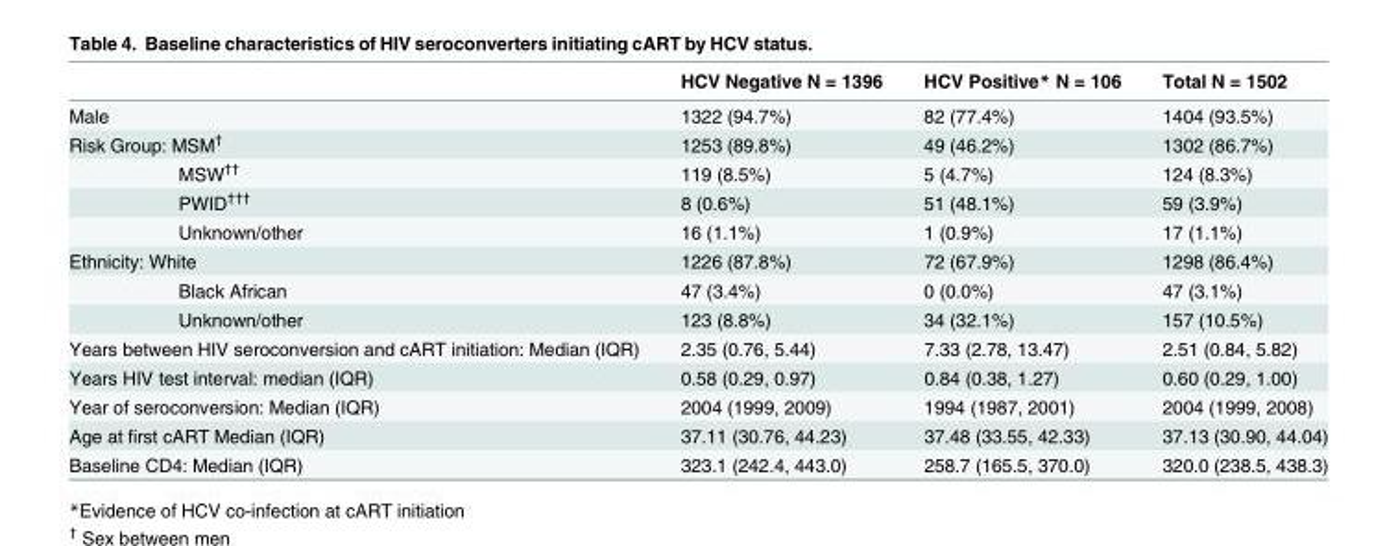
<table><thead><tr><td></td><td>HCV Negative N = 1396</td><td>HCV Positive* N = 106</td><td>Total N = 1502</td></tr></thead><tbody><tr><td>Male</td><td>1322 (94.7%)</td><td>82 (77.4%)</td><td>1404 (93.5%)</td></tr><tr><td>Risk Group: MSM<sup>†</sup></td><td>1253 (89.8%)</td><td>49 (46.2%)</td><td>1302 (86.7%)</td></tr><tr><td>MSW<sup>††</sup></td><td>119 (8.5%)</td><td>5 (4.7%)</td><td>124 (8.3%)</td></tr><tr><td>PWID<sup>†††</sup></td><td>8 (0.6%)</td><td>51 (48.1%)</td><td>59 (3.9%)</td></tr><tr><td>Unknown/other</td><td>16 (1.1%)</td><td>1 (0.9%)</td><td>17 (1.1%)</td></tr><tr><td>Ethnicity: White</td><td>1226 (87.8%)</td><td>72 (67.9%)</td><td>1298 (86.4%)</td></tr><tr><td>Black African</td><td>47 (3.4%)</td><td>0 (0.0%)</td><td>47 (3.1%)</td></tr><tr><td>Unknown/other</td><td>123 (8.8%)</td><td>34 (32.1%)</td><td>157 (10.5%)</td></tr><tr><td>Years between HIV seroconversion and cART initiation: Median (IQR)</td><td>2.35 (0.76, 5.44)</td><td>7.33 (2.78, 13.47)</td><td>2.51 (0.84, 5.82)</td></tr><tr><td>Years HIV test interval: median (IQR)</td><td>0.58 (0.29, 0.97)</td><td>0.84 (0.38, 1.27)</td><td>0.60 (0.29, 1.00)</td></tr><tr><td>Year of seroconversion: Median (IQR)</td><td>2004 (1999, 2009)</td><td>1994 (1987, 2001)</td><td>2004 (1999, 2008)</td></tr><tr><td>Age at first cART Median (IQR)</td><td>37.11 (30.76, 44.23)</td><td>37.48 (33.55, 42.33)</td><td>37.13 (30.90, 44.04)</td></tr><tr><td>Baseline CD4: Median (IQR)</td><td>323.1 (242.4, 443.0)</td><td>258.7 (165.5, 370.0)</td><td>320.0 (238.5, 438.3)</td></tr></tbody></table>